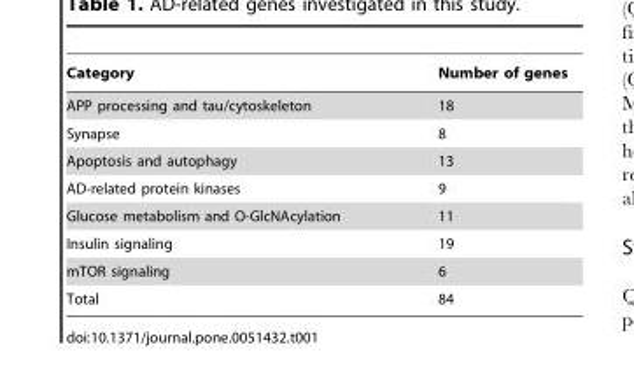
<table><thead><tr><td>Category</td><td>Number of genes</td></tr></thead><tbody><tr><td>APP processing and tau/cytoskeleton</td><td>18</td></tr><tr><td>Synapse</td><td>8</td></tr><tr><td>Apoptosis and autophagy</td><td>13</td></tr><tr><td>AD-related protein kinases</td><td>9</td></tr><tr><td>Glucose metabolism and O-GlcNAcylation</td><td>11</td></tr><tr><td>Insulin signaling</td><td>19</td></tr><tr><td>mTOR signaling</td><td>6</td></tr><tr><td>Total</td><td>84</td></tr></tbody></table>